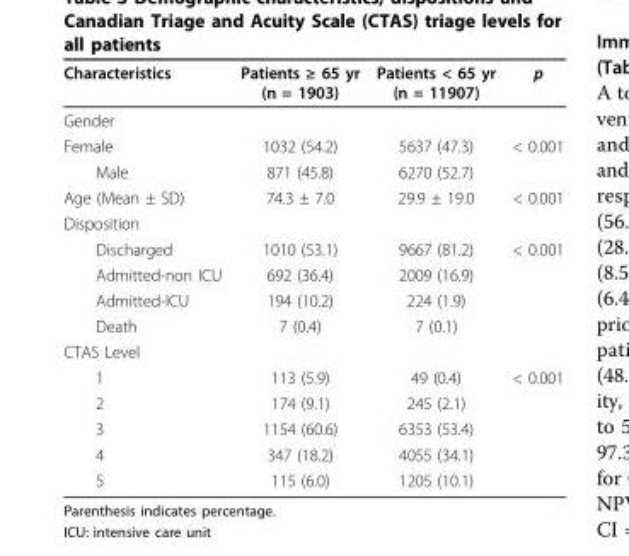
<table><thead><tr><td>Characteristics</td><td>Patients ≥ 65 yr (n = 1903)</td><td>Patients &lt; 65 yr (n = 11907)</td><td>p</td></tr></thead><tbody><tr><td colspan="4">Gender</td></tr><tr><td>Female</td><td>1032 (54.2)</td><td>5637 (47.3)</td><td>&lt; 0.001</td></tr><tr><td>Male</td><td>871 (45.8)</td><td>6270 (52.7)</td><td></td></tr><tr><td>Age (Mean ± SD)</td><td>74.3 ± 7.0</td><td>29.9 ± 19.0</td><td>&lt; 0.001</td></tr><tr><td colspan="4">Disposition</td></tr><tr><td>Discharged</td><td>1010 (53.1)</td><td>9667 (81.2)</td><td>&lt; 0.001</td></tr><tr><td>Admitted-non ICU</td><td>692 (36.4)</td><td>2009 (16.9)</td><td></td></tr><tr><td>Admitted-ICU</td><td>194 (10.2)</td><td>224 (1.9)</td><td></td></tr><tr><td>Death</td><td>7 (0.4)</td><td>7 (0.1)</td><td></td></tr><tr><td colspan="4">CTAS Level</td></tr><tr><td>1</td><td>113 (5.9)</td><td>49 (0.4)</td><td>&lt; 0.001</td></tr><tr><td>2</td><td>174 (9.1)</td><td>245 (2.1)</td><td></td></tr><tr><td>3</td><td>1154 (60.6)</td><td>6353 (53.4)</td><td></td></tr><tr><td>4</td><td>347 (18.2)</td><td>4055 (34.1)</td><td></td></tr><tr><td>5</td><td>115 (6.0)</td><td>1205 (10.1)</td><td></td></tr></tbody></table>